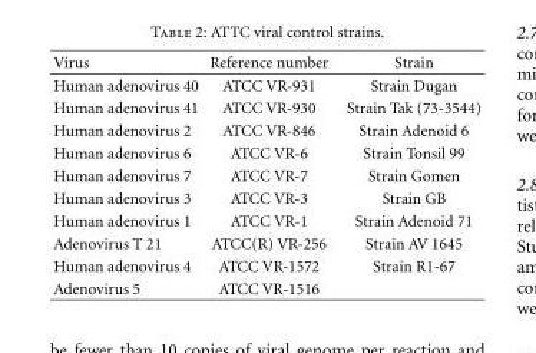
<table><thead><tr><td>Virus</td><td>Reference number</td><td>Strain</td></tr></thead><tbody><tr><td>Human adenovirus 40</td><td>ATCC VR-931</td><td>Strain Dugan</td></tr><tr><td>Human adenovirus 41</td><td>ATCC VR-930</td><td>Strain Tak (73-3544)</td></tr><tr><td>Human adenovirus 2</td><td>ATCC VR-846</td><td>Strain Adenoid 6</td></tr><tr><td>Human adenovirus 6</td><td>ATCC VR-6</td><td>Strain Tonsil 99</td></tr><tr><td>Human adenovirus 7</td><td>ATCC VR-7</td><td>Strain Gomen</td></tr><tr><td>Human adenovirus 3</td><td>ATCC VR-3</td><td>Strain GB</td></tr><tr><td>Human adenovirus 1</td><td>ATCC VR-1</td><td>Strain Adenoid 71</td></tr><tr><td>Adenovirus T 21</td><td>ATCC(R) VR-256</td><td>Strain AV 1645</td></tr><tr><td>Human adenovirus 4</td><td>ATCC VR-1572</td><td>Strain R1-67</td></tr><tr><td>Adenovirus 5</td><td>ATCC VR-1516</td><td></td></tr></tbody></table>